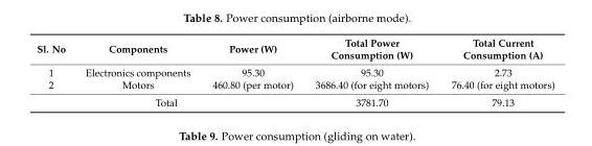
<table><thead><tr><td>Sl. No</td><td>Components</td><td>Power (W)</td><td>Total Power Consumption (W)</td><td>Total Current Consumption (A)</td></tr></thead><tbody><tr><td>1</td><td>Electronics components</td><td>95.30</td><td>95.30</td><td>2.73</td></tr><tr><td>2</td><td>Motors</td><td>460.80 (per motor)</td><td>3686.40 (for eight motors)</td><td>76.40 (for eight motors)</td></tr><tr><td colspan="3">Total</td><td>3781.70</td><td>79.13</td></tr></tbody></table>